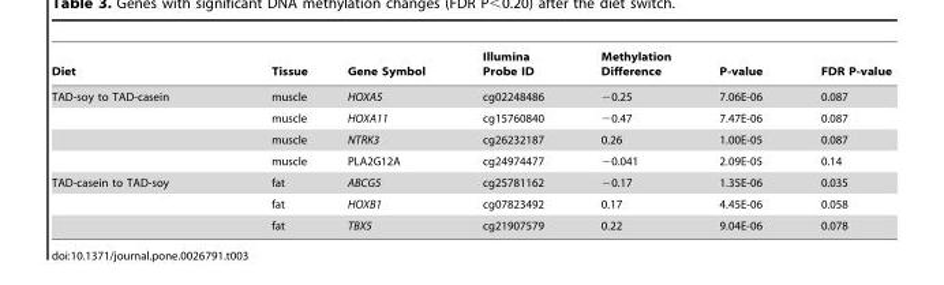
<table><thead><tr><td>Diet</td><td>Tissue</td><td>Gene Symbol</td><td>Illumina Probe ID</td><td>Methylation Difference</td><td>P-value</td><td>FDR P-value</td></tr></thead><tbody><tr><td rowspan="4">TAD-soy to TAD-casein</td><td>muscle</td><td>HOXA5</td><td>cg02248486</td><td>−0.25</td><td>7.06E-06</td><td>0.087</td></tr><tr><td>muscle</td><td>HOXA11</td><td>cg15760840</td><td>−0.47</td><td>7.47E-06</td><td>0.087</td></tr><tr><td>muscle</td><td>NTRK3</td><td>cg26232187</td><td>0.26</td><td>1.00E-05</td><td>0.087</td></tr><tr><td>muscle</td><td>PLA2G12A</td><td>cg24974477</td><td>−0.041</td><td>2.09E-05</td><td>0.14</td></tr><tr><td rowspan="3">TAD-casein to TAD-soy</td><td>fat</td><td>ABCG5</td><td>cg25781162</td><td>−0.17</td><td>1.35E-06</td><td>0.035</td></tr><tr><td>fat</td><td>HOXB1</td><td>cg07823492</td><td>0.17</td><td>4.45E-06</td><td>0.058</td></tr><tr><td>fat</td><td>TBX5</td><td>cg21907579</td><td>0.22</td><td>9.04E-06</td><td>0.078</td></tr></tbody></table>